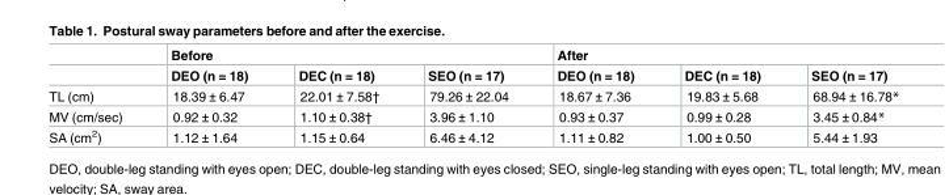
<table><thead><tr><td rowspan="2"></td><td colspan="3">Before</td><td colspan="3">After</td></tr><tr><td>DEO (n = 18)</td><td>DEC (n = 18)</td><td>SEO (n = 17)</td><td>DEO (n = 18)</td><td>DEC (n = 18)</td><td>SEO (n = 17)</td></tr></thead><tbody><tr><td>TL (cm)</td><td>18.39 ± 6.47</td><td>22.01 ± 7.58†</td><td>79.26 ± 22.04</td><td>18.67 ± 7.36</td><td>19.83 ± 5.68</td><td>68.94 ± 16.78*</td></tr><tr><td>MV (cm/sec)</td><td>0.92 ± 0.32</td><td>1.10 ± 0.38†</td><td>3.96 ± 1.10</td><td>0.93 ± 0.37</td><td>0.99 ± 0.28</td><td>3.45 ± 0.84*</td></tr><tr><td>SA (cm<sup>2</sup>)</td><td>1.12 ± 1.64</td><td>1.15 ± 0.64</td><td>6.46 ± 4.12</td><td>1.11 ± 0.82</td><td>1.00 ± 0.50</td><td>5.44 ± 1.93</td></tr></tbody></table>